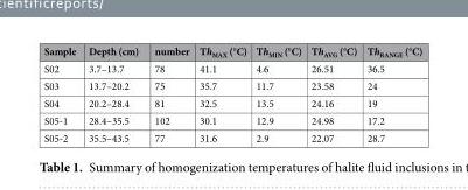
<table><thead><tr><td>Sample</td><td>Depth (cm)</td><td>number</td><td>Th<sub>MAX</sub> (°C)</td><td>Th<sub>MIN</sub> (°C)</td><td>Th<sub>AVG</sub> (°C)</td><td>Th<sub>RANGE</sub> (°C)</td></tr></thead><tbody><tr><td>S02</td><td>3.7–13.7</td><td>78</td><td>41.1</td><td>4.6</td><td>26.51</td><td>36.5</td></tr><tr><td>S03</td><td>13.7–20.2</td><td>75</td><td>35.7</td><td>11.7</td><td>23.58</td><td>24</td></tr><tr><td>S04</td><td>20.2–28.4</td><td>81</td><td>32.5</td><td>13.5</td><td>24.16</td><td>19</td></tr><tr><td>S05-1</td><td>28.4–35.5</td><td>102</td><td>30.1</td><td>12.9</td><td>24.98</td><td>17.2</td></tr><tr><td>S05-2</td><td>35.5–43.5</td><td>77</td><td>31.6</td><td>2.9</td><td>22.07</td><td>28.7</td></tr></tbody></table>